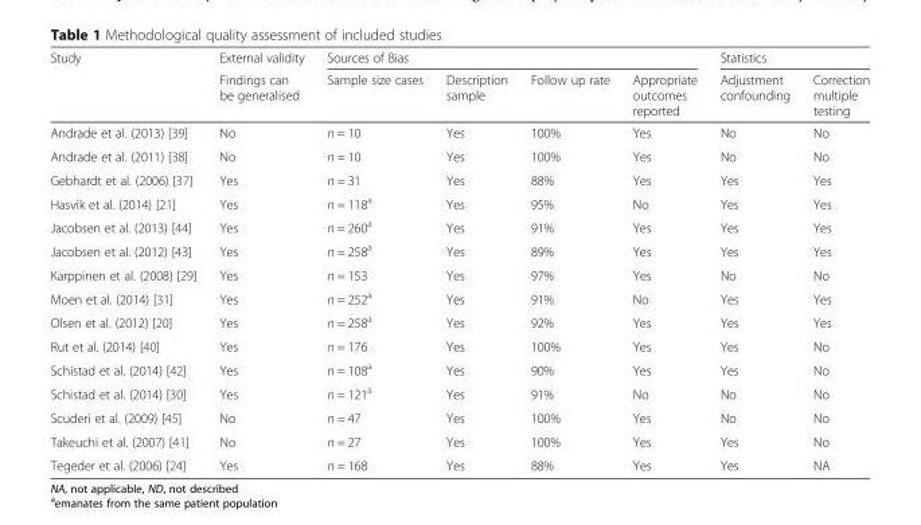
<table><thead><tr><td rowspan="2">Study</td><td rowspan="2">External validity Findings can be generalised</td><td colspan="4">Sources of Bias</td><td colspan="2">Statistics</td></tr><tr><td>Sample size cases</td><td>Description sample</td><td>Follow up rate</td><td>Appropriate outcomes reported</td><td>Adjustment confounding</td><td>Correction multiple testing</td></tr></thead><tbody><tr><td>Andrade et al. (2013) [39]</td><td>No</td><td>n = 10</td><td>Yes</td><td>100%</td><td>Yes</td><td>No</td><td>No</td></tr><tr><td>Andrade et al. (2011) [38]</td><td>No</td><td>n = 10</td><td>Yes</td><td>100%</td><td>Yes</td><td>No</td><td>No</td></tr><tr><td>Gebhardt et al. (2006) [37]</td><td>Yes</td><td>n = 31</td><td>Yes</td><td>88%</td><td>Yes</td><td>Yes</td><td>Yes</td></tr><tr><td>Hasvik et al. (2014) [21]</td><td>Yes</td><td>n = 118<sup>a</sup></td><td>Yes</td><td>95%</td><td>No</td><td>Yes</td><td>Yes</td></tr><tr><td>Jacobsen et al. (2013) [44]</td><td>Yes</td><td>n = 260<sup>a</sup></td><td>Yes</td><td>91%</td><td>Yes</td><td>Yes</td><td>Yes</td></tr><tr><td>Jacobsen et al. (2012) [43]</td><td>Yes</td><td>n = 258<sup>a</sup></td><td>Yes</td><td>89%</td><td>Yes</td><td>Yes</td><td>Yes</td></tr><tr><td>Karppinen et al. (2008) [29]</td><td>Yes</td><td>n = 153</td><td>Yes</td><td>97%</td><td>Yes</td><td>No</td><td>No</td></tr><tr><td>Moen et al. (2014) [31]</td><td>Yes</td><td>n = 252<sup>a</sup></td><td>Yes</td><td>91%</td><td>No</td><td>Yes</td><td>Yes</td></tr><tr><td>Olsen et al. (2012) [20]</td><td>Yes</td><td>n = 258<sup>a</sup></td><td>Yes</td><td>92%</td><td>Yes</td><td>Yes</td><td>Yes</td></tr><tr><td>Rut et al. (2014) [40]</td><td>Yes</td><td>n = 176</td><td>Yes</td><td>100%</td><td>Yes</td><td>Yes</td><td>No</td></tr><tr><td>Schistad et al. (2014) [42]</td><td>Yes</td><td>n = 108<sup>a</sup></td><td>Yes</td><td>90%</td><td>Yes</td><td>Yes</td><td>No</td></tr><tr><td>Schistad et al. (2014) [30]</td><td>Yes</td><td>n = 121<sup>a</sup></td><td>Yes</td><td>91%</td><td>No</td><td>No</td><td>No</td></tr><tr><td>Scuderi et al. (2009) [45]</td><td>No</td><td>n = 47</td><td>Yes</td><td>100%</td><td>Yes</td><td>No</td><td>No</td></tr><tr><td>Takeuchi et al. (2007) [41]</td><td>No</td><td>n = 27</td><td>Yes</td><td>100%</td><td>Yes</td><td>Yes</td><td>No</td></tr><tr><td>Tegeder et al. (2006) [24]</td><td>Yes</td><td>n = 168</td><td>Yes</td><td>88%</td><td>Yes</td><td>Yes</td><td>NA</td></tr></tbody></table>